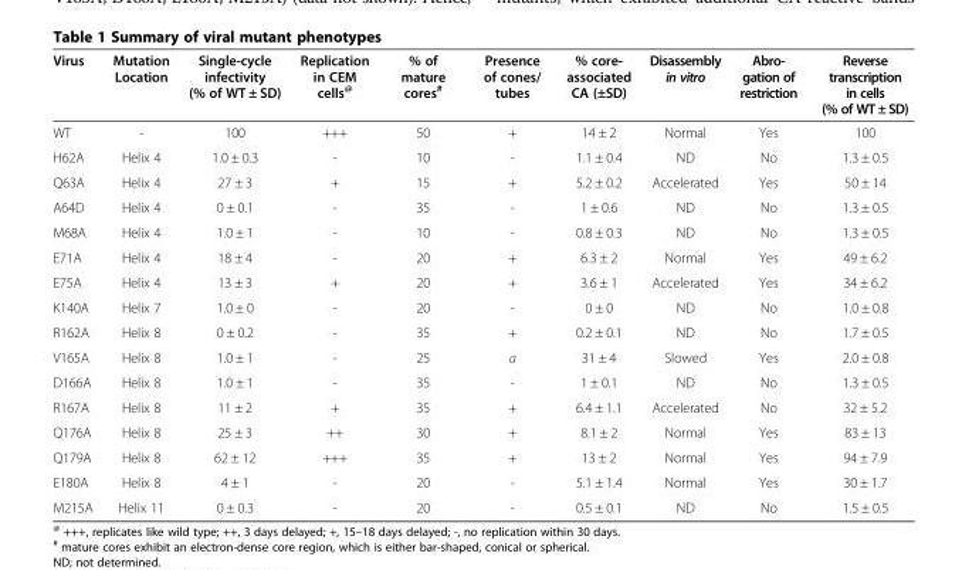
<table><thead><tr><td>Virus</td><td>Mutation Location</td><td>Single-cycle infectivity (% of WT ± SD)</td><td>Replication in CEM cells<sup>@</sup></td><td>% of mature cores<sup>#</sup></td><td>Presence of cones/ tubes</td><td>% core- associated CA (±SD)</td><td>Disassembly in vitro</td><td>Abro- gation of restriction</td><td>Reverse transcription in cells (% of WT ± SD)</td></tr></thead><tbody><tr><td>WT</td><td>-</td><td>100</td><td>+++</td><td>50</td><td>+</td><td>14 ± 2</td><td>Normal</td><td>Yes</td><td>100</td></tr><tr><td>H62A</td><td>Helix 4</td><td>1.0 ± 0.3</td><td>-</td><td>10</td><td>-</td><td>1.1 ± 0.4</td><td>ND</td><td>No</td><td>1.3 ± 0.5</td></tr><tr><td>Q63A</td><td>Helix 4</td><td>27 ± 3</td><td>+</td><td>15</td><td>+</td><td>5.2 ± 0.2</td><td>Accelerated</td><td>Yes</td><td>50 ± 14</td></tr><tr><td>A64D</td><td>Helix 4</td><td>0 ± 0.1</td><td>-</td><td>35</td><td>-</td><td>1 ± 0.6</td><td>ND</td><td>No</td><td>1.3 ± 0.5</td></tr><tr><td>M68A</td><td>Helix 4</td><td>1.0 ± 1</td><td>-</td><td>10</td><td>-</td><td>0.8 ± 0.3</td><td>ND</td><td>No</td><td>1.3 ± 0.5</td></tr><tr><td>E71A</td><td>Helix 4</td><td>18 ± 4</td><td>-</td><td>20</td><td>+</td><td>6.3 ± 2</td><td>Normal</td><td>Yes</td><td>49 ± 6.2</td></tr><tr><td>E75A</td><td>Helix 4</td><td>13 ± 3</td><td>+</td><td>20</td><td>+</td><td>3.6 ± 1</td><td>Accelerated</td><td>Yes</td><td>34 ± 6.2</td></tr><tr><td>K140A</td><td>Helix 7</td><td>1.0 ± 0</td><td>-</td><td>20</td><td>-</td><td>0 ± 0</td><td>ND</td><td>No</td><td>1.0 ± 0.8</td></tr><tr><td>R162A</td><td>Helix 8</td><td>0 ± 0.2</td><td>-</td><td>35</td><td>+</td><td>0.2 ± 0.1</td><td>ND</td><td>No</td><td>1.7 ± 0.5</td></tr><tr><td>V165A</td><td>Helix 8</td><td>1.0 ± 1</td><td>-</td><td>25</td><td>a</td><td>31 ± 4</td><td>Slowed</td><td>Yes</td><td>2.0 ± 0.8</td></tr><tr><td>D166A</td><td>Helix 8</td><td>1.0 ± 1</td><td>-</td><td>35</td><td>-</td><td>1 ± 0.1</td><td>ND</td><td>No</td><td>1.3 ± 0.5</td></tr><tr><td>R167A</td><td>Helix 8</td><td>11 ± 2</td><td>+</td><td>35</td><td>+</td><td>6.4 ± 1.1</td><td>Accelerated</td><td>No</td><td>32 ± 5.2</td></tr><tr><td>Q176A</td><td>Helix 8</td><td>25 ± 3</td><td>++</td><td>30</td><td>+</td><td>8.1 ± 2</td><td>Normal</td><td>Yes</td><td>83 ± 13</td></tr><tr><td>Q179A</td><td>Helix 8</td><td>62 ± 12</td><td>+++</td><td>35</td><td>+</td><td>13 ± 2</td><td>Normal</td><td>Yes</td><td>94 ± 7.9</td></tr><tr><td>E180A</td><td>Helix 8</td><td>4 ± 1</td><td>-</td><td>20</td><td>-</td><td>5.1 ± 1.4</td><td>Normal</td><td>Yes</td><td>30 ± 1.7</td></tr><tr><td>M215A</td><td>Helix 11</td><td>0 ± 0.3</td><td>-</td><td>20</td><td>-</td><td>0.5 ± 0.1</td><td>ND</td><td>No</td><td>1.5 ± 0.5</td></tr></tbody></table>